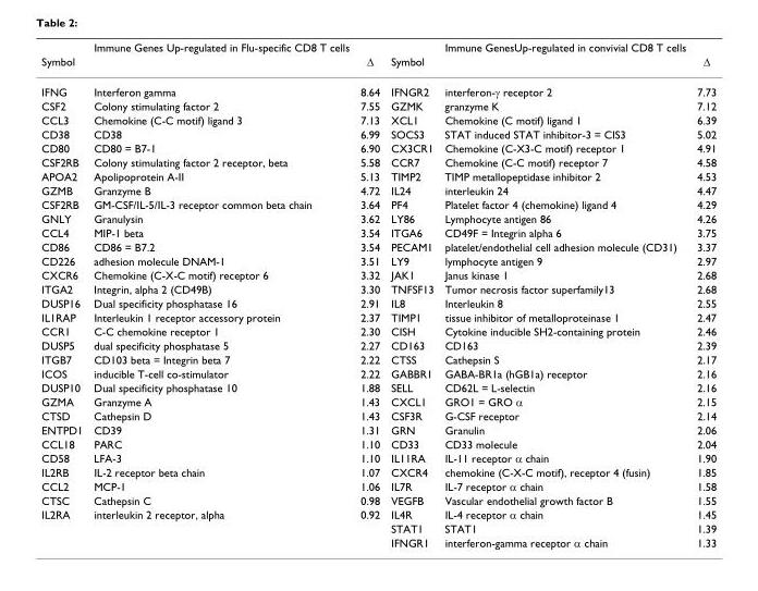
<table><thead><tr><td rowspan="2">Symbol</td><td rowspan="2">Immune Genes Up-regulated in Flu-specific CD8 T cells</td><td rowspan="2">Δ</td><td rowspan="2">Symbol</td><td rowspan="2">Immune GenesUp-regulated in convivial CD8 T cells</td><td rowspan="2">Δ</td></tr><tr></tr></thead><tbody><tr><td>IFNG</td><td>Interferon gamma</td><td>8.64</td><td>IFNGR2</td><td>interferon-γ receptor 2</td><td>7.73</td></tr><tr><td>CSF2</td><td>Colony stimulating factor 2</td><td>7.55</td><td>GZMK</td><td>granzyme K</td><td>7.12</td></tr><tr><td>CCL3</td><td>Chemokine (C-C motif) ligand 3</td><td>7.13</td><td>XCL1</td><td>Chemokine (C motif) ligand 1</td><td>6.39</td></tr><tr><td>CD38</td><td>CD38</td><td>6.99</td><td>SOCS3</td><td>STAT induced STAT inhibitor-3 = CIS3</td><td>5.02</td></tr><tr><td>CD80</td><td>CD80 = B7-1</td><td>6.90</td><td>CX3CR1</td><td>Chemokine (C-X3-C motif) receptor 1</td><td>4.91</td></tr><tr><td>CSF2RB</td><td>Colony stimulating factor 2 receptor, beta</td><td>5.58</td><td>CCR7</td><td>Chemokine (C-C motif) receptor 7</td><td>4.58</td></tr><tr><td>APOA2</td><td>Apolipoprotein A-II</td><td>5.13</td><td>TIMP2</td><td>TIMP metallopeptidase inhibitor 2</td><td>4.53</td></tr><tr><td>GZMB</td><td>Granzyme B</td><td>4.72</td><td>IL24</td><td>interleukin 24</td><td>4.47</td></tr><tr><td>CSF2RB</td><td>GM-CSF/IL-5/IL-3 receptor common beta chain</td><td>3.64</td><td>PF4</td><td>Platelet factor 4 (chemokine) ligand 4</td><td>4.29</td></tr><tr><td>GNLY</td><td>Granulysin</td><td>3.62</td><td>LY86</td><td>Lymphocyte antigen 86</td><td>4.26</td></tr><tr><td>CCL4</td><td>MIP-1 beta</td><td>3.54</td><td>ITGA6</td><td>CD49F = Integrin alpha 6</td><td>3.75</td></tr><tr><td>CD86</td><td>CD86 = B7.2</td><td>3.54</td><td>PECAM1</td><td>platelet/endothelial cell adhesion molecule (CD31)</td><td>3.37</td></tr><tr><td>CD226</td><td>adhesion molecule DNAM-1</td><td>3.51</td><td>LY9</td><td>lymphocyte antigen 9</td><td>2.97</td></tr><tr><td>CXCR6</td><td>Chemokine (C-X-C motif) receptor 6</td><td>3.32</td><td>JAK1</td><td>Janus kinase 1</td><td>2.68</td></tr><tr><td>ITGA2</td><td>Integrin, alpha 2 (CD49B)</td><td>3.30</td><td>TNFSF13</td><td>Tumor necrosis factor superfamily13</td><td>2.68</td></tr><tr><td>DUSP16</td><td>Dual specificity phosphatase 16</td><td>2.91</td><td>IL8</td><td>Interleukin 8</td><td>2.55</td></tr><tr><td>IL1RAP</td><td>Interleukin 1 receptor accessory protein</td><td>2.37</td><td>TIMP1</td><td>tissue inhibitor of metalloproteinase 1</td><td>2.47</td></tr><tr><td>CCR1</td><td>C-C chemokine receptor 1</td><td>2.30</td><td>CISH</td><td>Cytokine inducible SH2-containing protein</td><td>2.46</td></tr><tr><td>DUSP5</td><td>dual specificity phosphatase 5</td><td>2.27</td><td>CD163</td><td>CD163</td><td>2.39</td></tr><tr><td>ITGB7</td><td>CD103 beta = Integrin beta 7</td><td>2.22</td><td>CTSS</td><td>Cathepsin S</td><td>2.17</td></tr><tr><td>ICOS</td><td>inducible T-cell co-stimulator</td><td>2.22</td><td>GABBR1</td><td>GABA-BR1a (hGB1a) receptor</td><td>2.16</td></tr><tr><td>DUSP10</td><td>Dual specificity phosphatase 10</td><td>1.88</td><td>SELL</td><td>CD62L = L-selectin</td><td>2.16</td></tr><tr><td>GZMA</td><td>Granzyme A</td><td>1.43</td><td>CXCL1</td><td>GRO1 = GRO α</td><td>2.15</td></tr><tr><td>CTSD</td><td>Cathepsin D</td><td>1.43</td><td>CSF3R</td><td>G-CSF receptor</td><td>2.14</td></tr><tr><td>ENTPD1</td><td>CD39</td><td>1.31</td><td>GRN</td><td>Granulin</td><td>2.06</td></tr><tr><td>CCL18</td><td>PARC</td><td>1.10</td><td>CD33</td><td>CD33 molecule</td><td>2.04</td></tr><tr><td>CD58</td><td>LFA-3</td><td>1.10</td><td>IL11RA</td><td>IL-11 receptor α chain</td><td>1.90</td></tr><tr><td>IL2RB</td><td>IL-2 receptor beta chain</td><td>1.07</td><td>CXCR4</td><td>chemokine (C-X-C motif), receptor 4 (fusin)</td><td>1.85</td></tr><tr><td>CCL2</td><td>MCP-1</td><td>1.06</td><td>IL7R</td><td>IL-7 receptor α chain</td><td>1.58</td></tr><tr><td>CTSC</td><td>Cathepsin C</td><td>0.98</td><td>VEGFB</td><td>Vascular endothelial growth factor B</td><td>1.55</td></tr><tr><td rowspan="3">IL2RA</td><td>interleukin 2 receptor, alpha</td><td>0.92</td><td>IL4R</td><td>IL-4 receptor α chain</td><td>1.45</td></tr><tr><td></td><td></td><td>STAT1</td><td>STAT1</td><td>1.39</td></tr><tr><td></td><td></td><td>IFNGR1</td><td>interferon-gamma receptor α chain</td><td>1.33</td></tr></tbody></table>